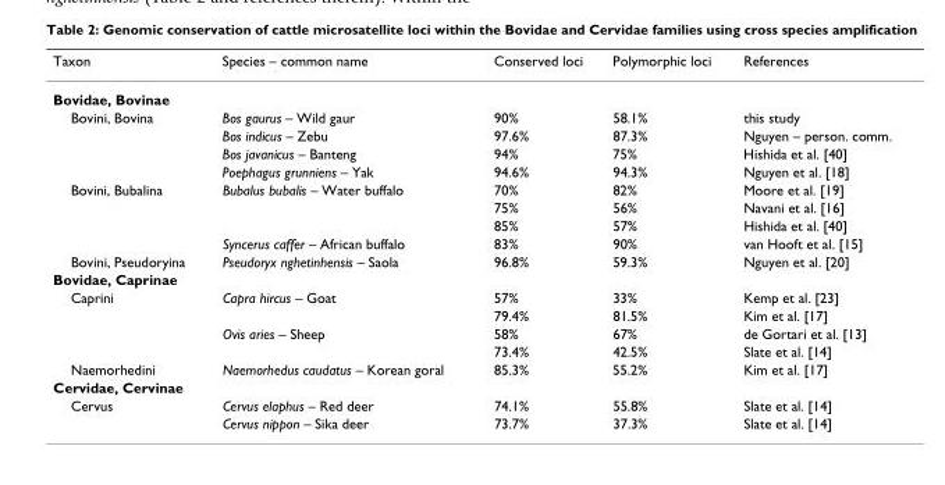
<table><thead><tr><td>Taxon</td><td>Species – common name</td><td>Conserved loci</td><td>Polymorphic loci</td><td>References</td></tr></thead><tbody><tr><td colspan="5">Bovidae, Bovinae</td></tr><tr><td rowspan="4">Bovini, Bovina</td><td>Bos gaurus – Wild gaur</td><td>90%</td><td>58.1%</td><td>this study</td></tr><tr><td>Bos indicus – Zebu</td><td>97.6%</td><td>87.3%</td><td>Nguyen – person. comm.</td></tr><tr><td>Bos javanicus – Banteng</td><td>94%</td><td>75%</td><td>Hishida et al. [40]</td></tr><tr><td>Poephagus grunniens – Yak</td><td>94.6%</td><td>94.3%</td><td>Nguyen et al. [18]</td></tr><tr><td rowspan="4">Bovini, Bubalina</td><td>Bubalus bubalis – Water buffalo</td><td>70%</td><td>82%</td><td>Moore et al. [19]</td></tr><tr><td></td><td>75%</td><td>56%</td><td>Navani et al. [16]</td></tr><tr><td></td><td>85%</td><td>57%</td><td>Hishida et al. [40]</td></tr><tr><td>Syncerus caffer – African buffalo</td><td>83%</td><td>90%</td><td>van Hooft et al. [15]</td></tr><tr><td>Bovini, Pseudoryina</td><td>Pseudoryx nghetinhensis – Saola</td><td>96.8%</td><td>59.3%</td><td>Nguyen et al. [20]</td></tr><tr><td colspan="5">Bovidae, Caprinae</td></tr><tr><td rowspan="4">Caprini</td><td>Capra hircus – Goat</td><td>57%</td><td>33%</td><td>Kemp et al. [23]</td></tr><tr><td></td><td>79.4%</td><td>81.5%</td><td>Kim et al. [17]</td></tr><tr><td>Ovis aries – Sheep</td><td>58%</td><td>67%</td><td>de Gortari et al. [13]</td></tr><tr><td></td><td>73.4%</td><td>42.5%</td><td>Slate et al. [14]</td></tr><tr><td>Naemorhedini</td><td>Naemorhedus caudatus – Korean goral</td><td>85.3%</td><td>55.2%</td><td>Kim et al. [17]</td></tr><tr><td colspan="5">Cervidae, Cervinae</td></tr><tr><td rowspan="2">Cervus</td><td>Cervus elaphus – Red deer</td><td>74.1%</td><td>55.8%</td><td>Slate et al. [14]</td></tr><tr><td>Cervus nippon – Sika deer</td><td>73.7%</td><td>37.3%</td><td>Slate et al. [14]</td></tr></tbody></table>